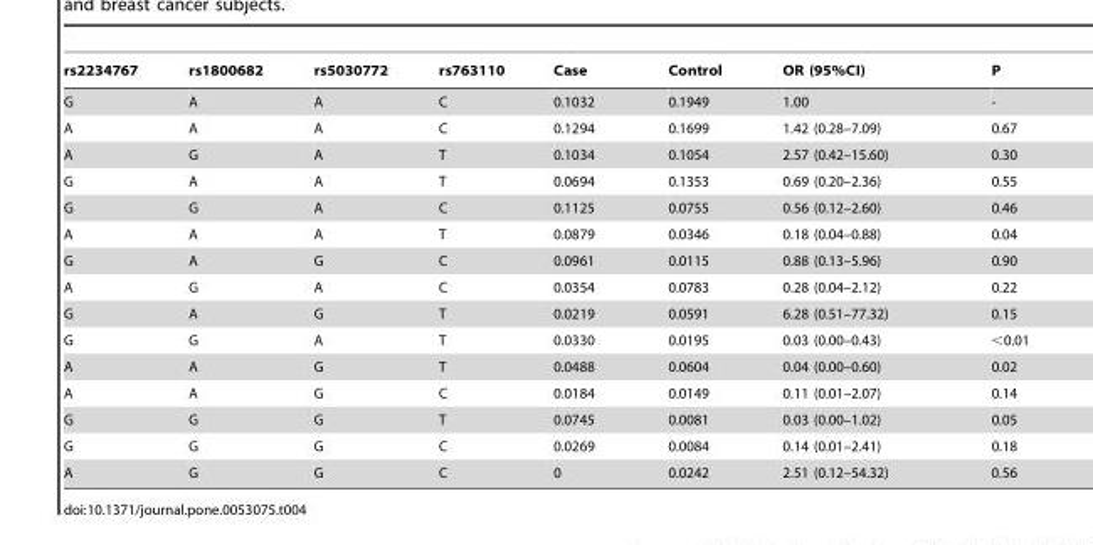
<table><thead><tr><td>rs2234767</td><td>rs1800682</td><td>rs5030772</td><td>rs763110</td><td>Case</td><td>Control</td><td>OR (95%CI)</td><td>P</td></tr></thead><tbody><tr><td>G</td><td>A</td><td>A</td><td>C</td><td>0.1032</td><td>0.1949</td><td>1.00</td><td>-</td></tr><tr><td>A</td><td>A</td><td>A</td><td>C</td><td>0.1294</td><td>0.1699</td><td>1.42 (0.28–7.09)</td><td>0.67</td></tr><tr><td>A</td><td>G</td><td>A</td><td>T</td><td>0.1034</td><td>0.1054</td><td>2.57 (0.42–15.60)</td><td>0.30</td></tr><tr><td>G</td><td>A</td><td>A</td><td>T</td><td>0.0694</td><td>0.1353</td><td>0.69 (0.20–2.36)</td><td>0.55</td></tr><tr><td>G</td><td>G</td><td>A</td><td>C</td><td>0.1125</td><td>0.0755</td><td>0.56 (0.12–2.60)</td><td>0.46</td></tr><tr><td>A</td><td>A</td><td>A</td><td>T</td><td>0.0879</td><td>0.0346</td><td>0.18 (0.04–0.88)</td><td>0.04</td></tr><tr><td>G</td><td>A</td><td>G</td><td>C</td><td>0.0961</td><td>0.0115</td><td>0.88 (0.13–5.96)</td><td>0.90</td></tr><tr><td>A</td><td>G</td><td>A</td><td>C</td><td>0.0354</td><td>0.0783</td><td>0.28 (0.04–2.12)</td><td>0.22</td></tr><tr><td>G</td><td>A</td><td>G</td><td>T</td><td>0.0219</td><td>0.0591</td><td>6.28 (0.51–77.32)</td><td>0.15</td></tr><tr><td>G</td><td>G</td><td>A</td><td>T</td><td>0.0330</td><td>0.0195</td><td>0.03 (0.00–0.43)</td><td>&lt;0.01</td></tr><tr><td>A</td><td>A</td><td>G</td><td>T</td><td>0.0488</td><td>0.0604</td><td>0.04 (0.00–0.60)</td><td>0.02</td></tr><tr><td>A</td><td>A</td><td>G</td><td>C</td><td>0.0184</td><td>0.0149</td><td>0.11 (0.01–2.07)</td><td>0.14</td></tr><tr><td>G</td><td>G</td><td>G</td><td>T</td><td>0.0745</td><td>0.0081</td><td>0.03 (0.00–1.02)</td><td>0.05</td></tr><tr><td>G</td><td>G</td><td>G</td><td>C</td><td>0.0269</td><td>0.0084</td><td>0.14 (0.01–2.41)</td><td>0.18</td></tr><tr><td>A</td><td>G</td><td>G</td><td>C</td><td>0</td><td>0.0242</td><td>2.51 (0.12–54.32)</td><td>0.56</td></tr></tbody></table>